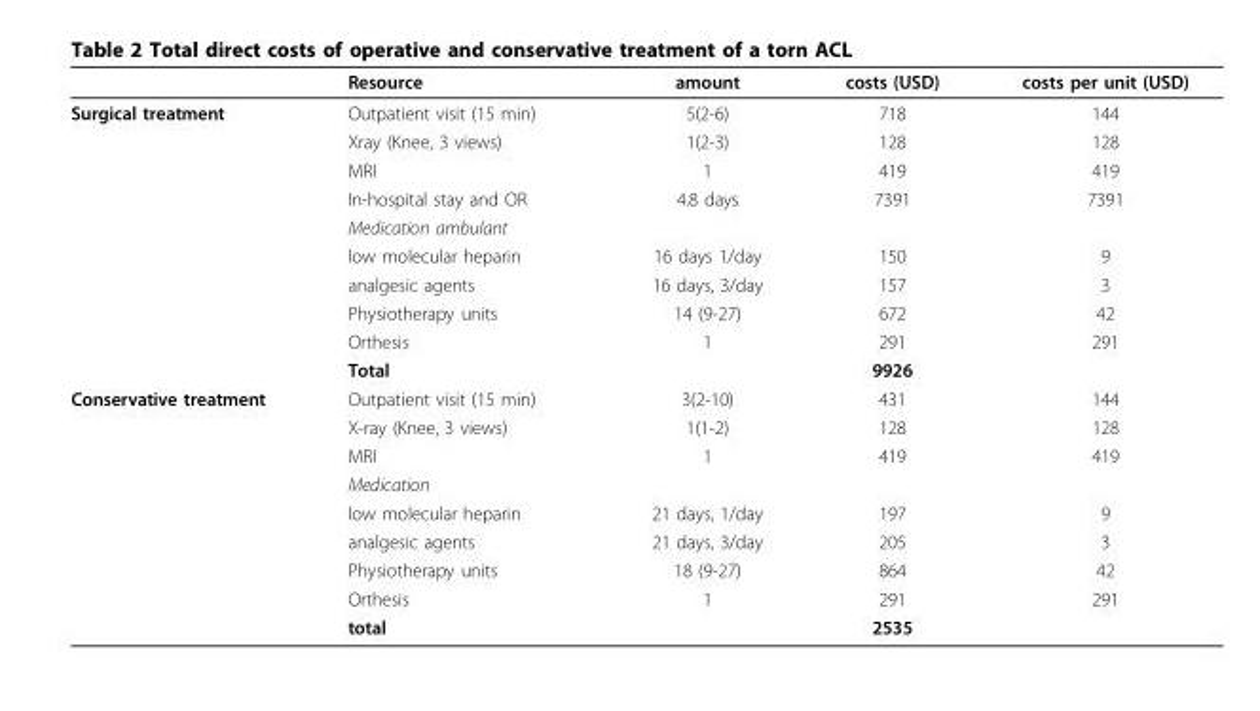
<table><thead><tr><td></td><td>Resource</td><td>amount</td><td>costs (USD)</td><td>costs per unit (USD)</td></tr></thead><tbody><tr><td rowspan="10">Surgical treatment</td><td>Outpatient visit (15 min)</td><td>5(2-6)</td><td>718</td><td>144</td></tr><tr><td>Xray (Knee, 3 views)</td><td>1(2-3)</td><td>128</td><td>128</td></tr><tr><td>MRI</td><td>1</td><td>419</td><td>419</td></tr><tr><td>In-hospital stay and OR</td><td>4.8 days</td><td>7391</td><td>7391</td></tr><tr><td>Medication ambulant</td><td></td><td></td><td></td></tr><tr><td>low molecular heparin</td><td>16 days 1/day</td><td>150</td><td>9</td></tr><tr><td>analgesic agents</td><td>16 days, 3/day</td><td>157</td><td>3</td></tr><tr><td>Physiotherapy units</td><td>14 (9-27)</td><td>672</td><td>42</td></tr><tr><td>Orthesis</td><td>1</td><td>291</td><td>291</td></tr><tr><td>Total</td><td></td><td>9926</td><td></td></tr><tr><td rowspan="9">Conservative treatment</td><td>Outpatient visit (15 min)</td><td>3(2-10)</td><td>431</td><td>144</td></tr><tr><td>X-ray (Knee, 3 views)</td><td>1(1-2)</td><td>128</td><td>128</td></tr><tr><td>MRI</td><td>1</td><td>419</td><td>419</td></tr><tr><td>Medication</td><td></td><td></td><td></td></tr><tr><td>low molecular heparin</td><td>21 days, 1/day</td><td>197</td><td>9</td></tr><tr><td>analgesic agents</td><td>21 days, 3/day</td><td>205</td><td>3</td></tr><tr><td>Physiotherapy units</td><td>18 (9-27)</td><td>864</td><td>42</td></tr><tr><td>Orthesis</td><td>1</td><td>291</td><td>291</td></tr><tr><td>total</td><td></td><td>2535</td><td></td></tr></tbody></table>